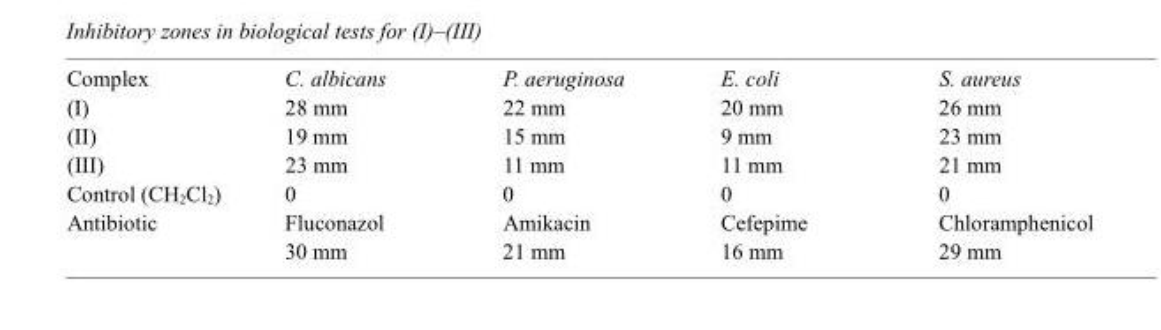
<table><tbody><tr><td>Complex</td><td>C. albicans</td><td>P. aeruginosa</td><td>E. coli</td><td>S. aureus</td></tr><tr><td>(I)</td><td>28 mm</td><td>22 mm</td><td>20 mm</td><td>26 mm</td></tr><tr><td>(II)</td><td>19 mm</td><td>15 mm</td><td>9 mm</td><td>23 mm</td></tr><tr><td>(III)</td><td>23 mm</td><td>11 mm</td><td>11 mm</td><td>21 mm</td></tr><tr><td>Control (CH<sub>2</sub>Cl<sub>2</sub>)</td><td>0</td><td>0</td><td>0</td><td>0</td></tr><tr><td rowspan="2">Antibiotic</td><td>Fluconazol</td><td>Amikacin</td><td>Cefepime</td><td>Chloramphenicol</td></tr><tr><td>30 mm</td><td>21 mm</td><td>16 mm</td><td>29 mm</td></tr></tbody></table>